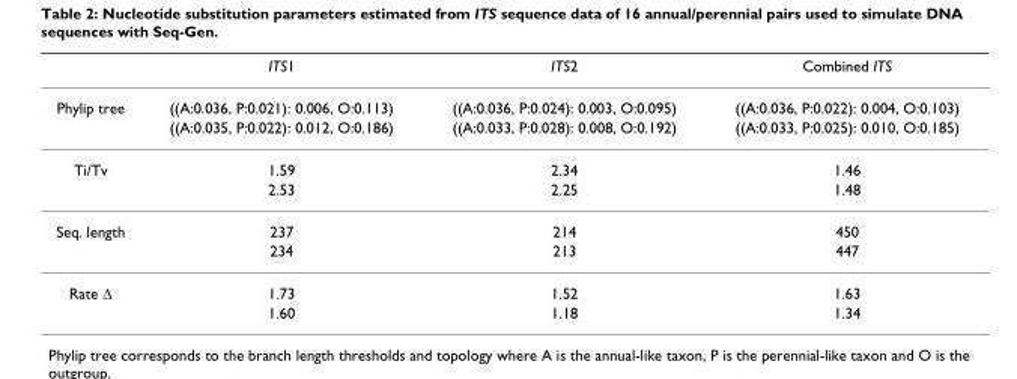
<table><thead><tr><td></td><td>ITS1</td><td>ITS2</td><td>Combined ITS</td></tr></thead><tbody><tr><td rowspan="2">Phylip tree</td><td>((A:0.036, P:0.021): 0.006, O:0.113)</td><td>((A:0.036, P:0.024): 0.003, O:0.095)</td><td>((A:0.036, P:0.022): 0.004, O:0.103)</td></tr><tr><td>((A:0.035, P:0.022): 0.012, O:0.186)</td><td>((A:0.033, P:0.028): 0.008, O:0.192)</td><td>((A:0.033, P:0.025): 0.010, O:0.185)</td></tr><tr><td rowspan="2">Ti/Tv</td><td>1.59</td><td>2.34</td><td>1.46</td></tr><tr><td>2.53</td><td>2.25</td><td>1.48</td></tr><tr><td rowspan="2">Seq. length</td><td>237</td><td>214</td><td>450</td></tr><tr><td>234</td><td>213</td><td>447</td></tr><tr><td rowspan="2">Rate Δ</td><td>1.73</td><td>1.52</td><td>1.63</td></tr><tr><td>1.60</td><td>1.18</td><td>1.34</td></tr></tbody></table>